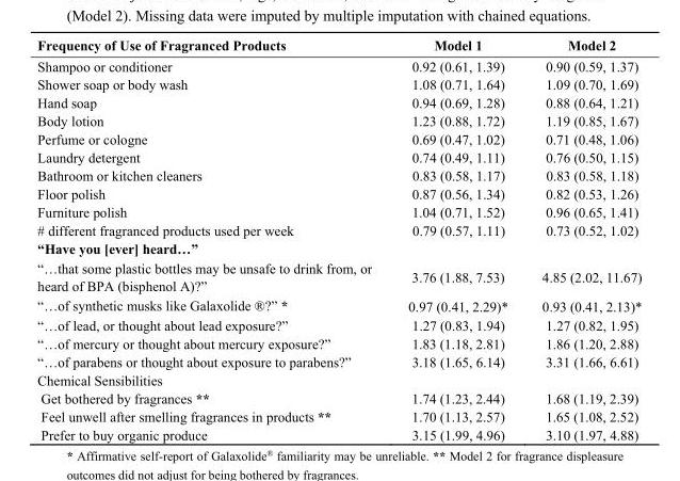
<table><thead><tr><td>Frequency of Use of Fragranced Products</td><td>Model 1</td><td>Model 2</td></tr></thead><tbody><tr><td>Shampoo or conditioner</td><td>0.92 (0.61, 1.39)</td><td>0.90 (0.59, 1.37)</td></tr><tr><td>Shower soap or body wash</td><td>1.08 (0.71, 1.64)</td><td>1.09 (0.70, 1.69)</td></tr><tr><td>Hand soap</td><td>0.94 (0.69, 1.28)</td><td>0.88 (0.64, 1.21)</td></tr><tr><td>Body lotion</td><td>1.23 (0.88, 1.72)</td><td>1.19 (0.85, 1.67)</td></tr><tr><td>Perfume or cologne</td><td>0.69 (0.47, 1.02)</td><td>0.71 (0.48, 1.06)</td></tr><tr><td>Laundry detergent</td><td>0.74 (0.49, 1.11)</td><td>0.76 (0.50, 1.15)</td></tr><tr><td>Bathroom or kitchen cleaners</td><td>0.83 (0.58, 1.17)</td><td>0.83 (0.58, 1.18)</td></tr><tr><td>Floor polish</td><td>0.87 (0.56, 1.34)</td><td>0.82 (0.53, 1.26)</td></tr><tr><td>Furniture polish</td><td>1.04 (0.71, 1.52)</td><td>0.96 (0.65, 1.41)</td></tr><tr><td># different fragranced products used per week</td><td>0.79 (0.57, 1.11)</td><td>0.73 (0.52, 1.02)</td></tr><tr><td colspan="3">“Have you [ever] heard…”</td></tr><tr><td>“…that some plastic bottles may be unsafe to drink from, or heard of BPA (bisphenol A)?”</td><td>3.76 (1.88, 7.53)</td><td>4.85 (2.02, 11.67)</td></tr><tr><td>“…of synthetic musks like Galaxolide ®?” *</td><td>0.97 (0.41, 2.29)*</td><td>0.93 (0.41, 2.13)*</td></tr><tr><td>“…of lead, or thought about lead exposure?”</td><td>1.27 (0.83, 1.94)</td><td>1.27 (0.82, 1.95)</td></tr><tr><td>“…of mercury or thought about mercury exposure?”</td><td>1.83 (1.18, 2.81)</td><td>1.86 (1.20, 2.88)</td></tr><tr><td>“…of parabens or thought about exposure to parabens?”</td><td>3.18 (1.65, 6.14)</td><td>3.31 (1.66, 6.61)</td></tr><tr><td colspan="3">Chemical Sensibilities</td></tr><tr><td>Get bothered by fragrances **</td><td>1.74 (1.23, 2.44)</td><td>1.68 (1.19, 2.39)</td></tr><tr><td>Feel unwell after smelling fragrances in products **</td><td>1.70 (1.13, 2.57)</td><td>1.65 (1.08, 2.52)</td></tr><tr><td>Prefer to buy organic produce</td><td>3.15 (1.99, 4.96)</td><td>3.10 (1.97, 4.88)</td></tr></tbody></table>